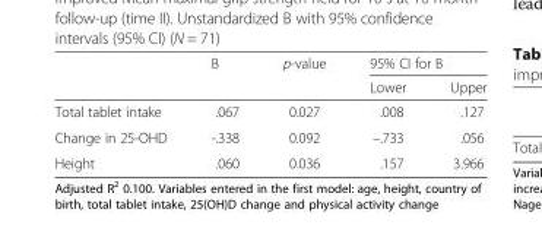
<table><thead><tr><td rowspan="2"></td><td rowspan="2">B</td><td rowspan="2">p-value</td><td colspan="2">95% CI for B</td></tr><tr><td>Lower</td><td>Upper</td></tr></thead><tbody><tr><td>Total tablet intake</td><td>.067</td><td>0.027</td><td>.008</td><td>.127</td></tr><tr><td>Change in 25-OHD</td><td>-.338</td><td>0.092</td><td>–.733</td><td>.056</td></tr><tr><td>Height</td><td>.060</td><td>0.036</td><td>.157</td><td>3.966</td></tr></tbody></table>